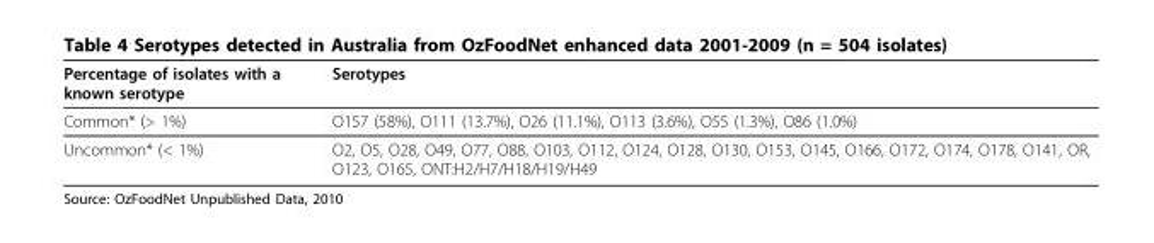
<table><thead><tr><td>Percentage of isolates with a known serotype</td><td>Serotypes</td></tr></thead><tbody><tr><td>Common* (&gt; 1%)</td><td>O157 (58%), O111 (13.7%), O26 (11.1%), O113 (3.6%), O55 (1.3%), O86 (1.0%)</td></tr><tr><td>Uncommon* (&lt; 1%)</td><td>O2, O5, O28, O49, O77, O88, O103, O112, O124, O128, O130, O153, O145, O166, O172, O174, O178, O141, OR, O123, O165, ONT:H2/H7/H18/H19/H49</td></tr></tbody></table>